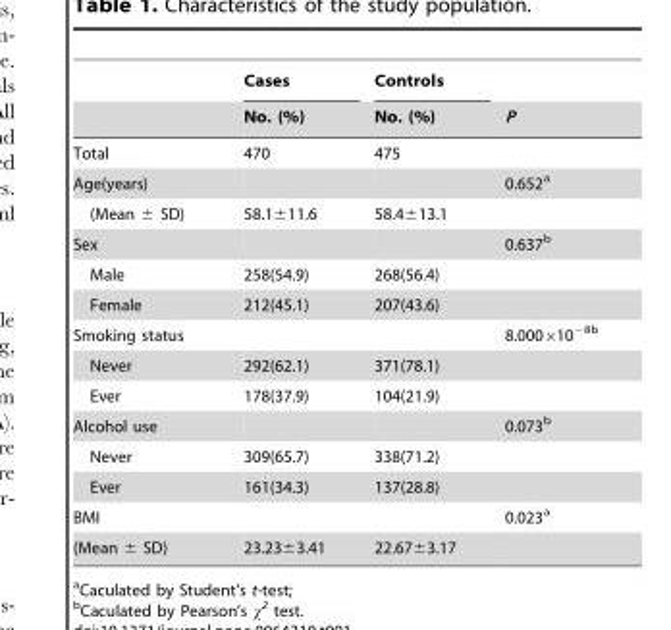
<table><thead><tr><td rowspan="2"></td><td rowspan="2">Cases No. (%)</td><td rowspan="2">Controls No. (%)</td><td rowspan="2">P</td></tr><tr></tr></thead><tbody><tr><td>Total</td><td>470</td><td>475</td><td></td></tr><tr><td>Age(years)</td><td></td><td></td><td>0.652<sup>a</sup></td></tr><tr><td>(Mean ± SD)</td><td>58.1±11.6</td><td>58.4±13.1</td><td></td></tr><tr><td>Sex</td><td></td><td></td><td>0.637<sup>b</sup></td></tr><tr><td>Male</td><td>258(54.9)</td><td>268(56.4)</td><td></td></tr><tr><td>Female</td><td>212(45.1)</td><td>207(43.6)</td><td></td></tr><tr><td>Smoking status</td><td></td><td></td><td>8.000×10<sup>−8b</sup></td></tr><tr><td>Never</td><td>292(62.1)</td><td>371(78.1)</td><td></td></tr><tr><td>Ever</td><td>178(37.9)</td><td>104(21.9)</td><td></td></tr><tr><td>Alcohol use</td><td></td><td></td><td>0.073<sup>b</sup></td></tr><tr><td>Never</td><td>309(65.7)</td><td>338(71.2)</td><td></td></tr><tr><td>Ever</td><td>161(34.3)</td><td>137(28.8)</td><td></td></tr><tr><td>BMI</td><td></td><td></td><td>0.023<sup>a</sup></td></tr><tr><td>(Mean ± SD)</td><td>23.23±3.41</td><td>22.67±3.17</td><td></td></tr></tbody></table>